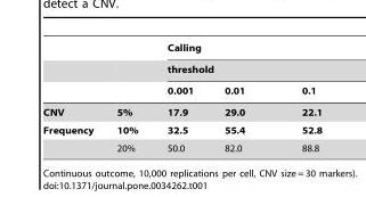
<table><thead><tr><td rowspan="3"></td><td rowspan="3"></td><td rowspan="2" colspan="3">Calling threshold</td></tr><tr></tr><tr><td>0.001</td><td>0.01</td><td>0.1</td></tr></thead><tbody><tr><td>CNV</td><td>5%</td><td>17.9</td><td>29.0</td><td>22.1</td></tr><tr><td rowspan="2">Frequency</td><td>10%</td><td>32.5</td><td>55.4</td><td>52.8</td></tr><tr><td>20%</td><td>50.0</td><td>82.0</td><td>88.8</td></tr></tbody></table>